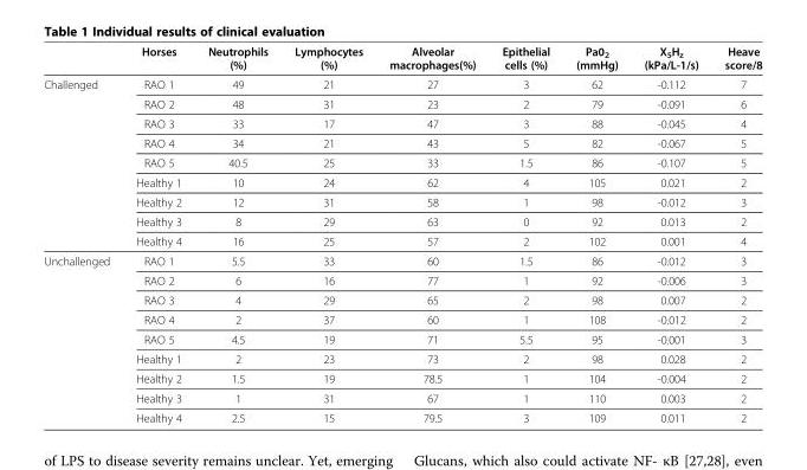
<table><thead><tr><td></td><td>Horses</td><td>Neutrophils (%)</td><td>Lymphocytes (%)</td><td>Alveolar macrophages(%)</td><td>Epithelial cells (%)</td><td>Pa0<sub>2</sub> (mmHg)</td><td>X<sub>5</sub>H<sub>z</sub> (kPa/L-1/s)</td><td>Heave score/8</td></tr></thead><tbody><tr><td rowspan="9">Challenged</td><td>RAO 1</td><td>49</td><td>21</td><td>27</td><td>3</td><td>62</td><td>-0.112</td><td>7</td></tr><tr><td>RAO 2</td><td>48</td><td>31</td><td>23</td><td>2</td><td>79</td><td>-0.091</td><td>6</td></tr><tr><td>RAO 3</td><td>33</td><td>17</td><td>47</td><td>3</td><td>88</td><td>-0.045</td><td>4</td></tr><tr><td>RAO 4</td><td>34</td><td>21</td><td>43</td><td>5</td><td>82</td><td>-0.067</td><td>5</td></tr><tr><td>RAO 5</td><td>40.5</td><td>25</td><td>33</td><td>1.5</td><td>86</td><td>-0.107</td><td>5</td></tr><tr><td>Healthy 1</td><td>10</td><td>24</td><td>62</td><td>4</td><td>105</td><td>0.021</td><td>2</td></tr><tr><td>Healthy 2</td><td>12</td><td>31</td><td>58</td><td>1</td><td>98</td><td>-0.012</td><td>3</td></tr><tr><td>Healthy 3</td><td>8</td><td>29</td><td>63</td><td>0</td><td>92</td><td>0.013</td><td>2</td></tr><tr><td>Healthy 4</td><td>16</td><td>25</td><td>57</td><td>2</td><td>102</td><td>0.001</td><td>4</td></tr><tr><td rowspan="9">Unchallenged</td><td>RAO 1</td><td>5.5</td><td>33</td><td>60</td><td>1.5</td><td>86</td><td>-0.012</td><td>3</td></tr><tr><td>RAO 2</td><td>6</td><td>16</td><td>77</td><td>1</td><td>92</td><td>-0.006</td><td>3</td></tr><tr><td>RAO 3</td><td>4</td><td>29</td><td>65</td><td>2</td><td>98</td><td>0.007</td><td>2</td></tr><tr><td>RAO 4</td><td>2</td><td>37</td><td>60</td><td>1</td><td>108</td><td>-0.012</td><td>2</td></tr><tr><td>RAO 5</td><td>4.5</td><td>19</td><td>71</td><td>5.5</td><td>95</td><td>-0.001</td><td>3</td></tr><tr><td>Healthy 1</td><td>2</td><td>23</td><td>73</td><td>2</td><td>98</td><td>0.028</td><td>2</td></tr><tr><td>Healthy 2</td><td>1.5</td><td>19</td><td>78.5</td><td>1</td><td>104</td><td>-0.004</td><td>2</td></tr><tr><td>Healthy 3</td><td>1</td><td>31</td><td>67</td><td>1</td><td>110</td><td>0.003</td><td>2</td></tr><tr><td>Healthy 4</td><td>2.5</td><td>15</td><td>79.5</td><td>3</td><td>109</td><td>0.011</td><td>2</td></tr></tbody></table>